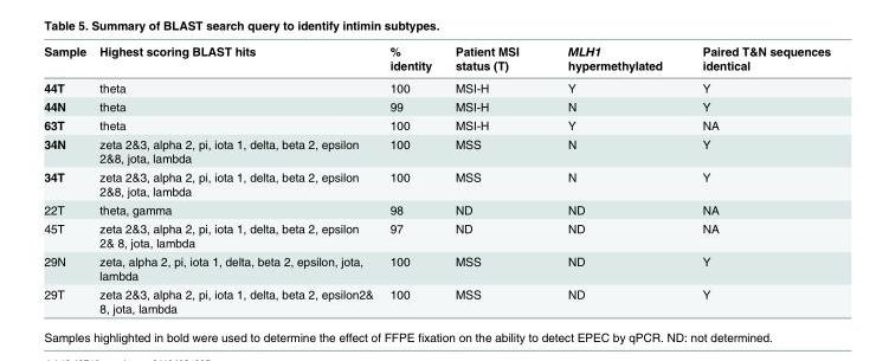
<table><thead><tr><td>Sample</td><td>Highest scoring BLAST hits</td><td>% identity</td><td>Patient MSI status (T)</td><td>MLH1 hypermethylated</td><td>Paired T&amp;N sequences identical</td></tr></thead><tbody><tr><td>44T</td><td>theta</td><td>100</td><td>MSI-H</td><td>Y</td><td>Y</td></tr><tr><td>44N</td><td>theta</td><td>99</td><td>MSI-H</td><td>N</td><td>Y</td></tr><tr><td>63T</td><td>theta</td><td>100</td><td>MSI-H</td><td>Y</td><td>NA</td></tr><tr><td>34N</td><td>zeta 2&amp;3, alpha 2, pi, iota 1, delta, beta 2, epsilon 2&amp;8, jota, lambda</td><td>100</td><td>MSS</td><td>N</td><td>Y</td></tr><tr><td>34T</td><td>zeta 2&amp;3, alpha 2, pi, iota 1, delta, beta 2, epsilon 2&amp;8, jota, lambda</td><td>100</td><td>MSS</td><td>N</td><td>Y</td></tr><tr><td>22T</td><td>theta, gamma</td><td>98</td><td>ND</td><td>ND</td><td>NA</td></tr><tr><td>45T</td><td>zeta 2&amp;3, alpha 2, pi, iota 1, delta, beta 2, epsilon 2&amp; 8, jota, lambda</td><td>97</td><td>ND</td><td>ND</td><td>NA</td></tr><tr><td>29N</td><td>zeta, alpha 2, pi, iota 1, delta, beta 2, epsilon, jota, lambda</td><td>100</td><td>MSS</td><td>ND</td><td>Y</td></tr><tr><td>29T</td><td>zeta 2&amp;3, alpha 2, pi, iota 1, delta, beta 2, epsilon2&amp; 8, jota, lambda</td><td>100</td><td>MSS</td><td>ND</td><td>Y</td></tr></tbody></table>